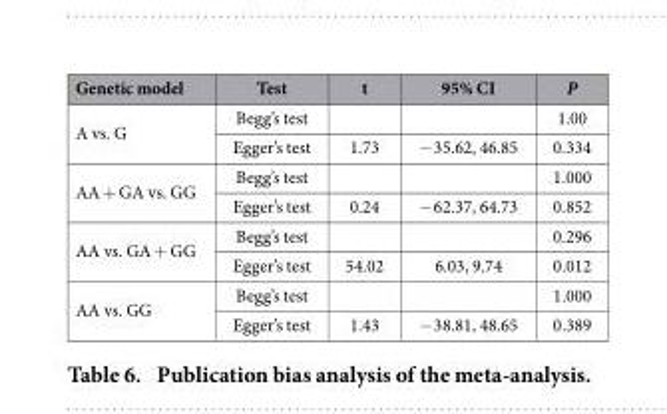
<table><thead><tr><td>Genetic model</td><td>Test</td><td>t</td><td>95% CI</td><td>P</td></tr></thead><tbody><tr><td rowspan="2">A vs. G</td><td>Begg’s test</td><td></td><td></td><td>1.00</td></tr><tr><td>Egger’s test</td><td>1.73</td><td>− 35.62, 46.85</td><td>0.334</td></tr><tr><td rowspan="2">AA + GA vs. GG</td><td>Begg’s test</td><td></td><td></td><td>1.000</td></tr><tr><td>Egger’s test</td><td>0.24</td><td>− 62.37, 64.73</td><td>0.852</td></tr><tr><td rowspan="2">AA vs. GA + GG</td><td>Begg’s test</td><td></td><td></td><td>0.296</td></tr><tr><td>Egger’s test</td><td>54.02</td><td>6.03, 9.74</td><td>0.012</td></tr><tr><td rowspan="2">AA vs. GG</td><td>Begg’s test</td><td></td><td></td><td>1.000</td></tr><tr><td>Egger’s test</td><td>1.43</td><td>− 38.81, 48.65</td><td>0.389</td></tr></tbody></table>